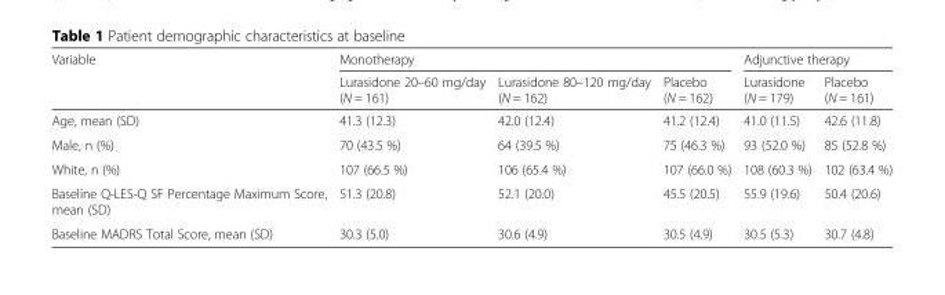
<table><thead><tr><td rowspan="2">Variable</td><td colspan="3">Monotherapy</td><td colspan="2">Adjunctive therapy</td></tr><tr><td>Lurasidone 20–60 mg/day (N = 161)</td><td>Lurasidone 80–120 mg/day (N = 162)</td><td>Placebo (N = 162)</td><td>Lurasidone (N = 179)</td><td>Placebo (N = 161)</td></tr></thead><tbody><tr><td>Age, mean (SD)</td><td>41.3 (12.3)</td><td>42.0 (12.4)</td><td>41.2 (12.4)</td><td>41.0 (11.5)</td><td>42.6 (11.8)</td></tr><tr><td>Male, n (%)</td><td>70 (43.5 %)</td><td>64 (39.5 %)</td><td>75 (46.3 %)</td><td>93 (52.0 %)</td><td>85 (52.8 %)</td></tr><tr><td>White, n (%)</td><td>107 (66.5 %)</td><td>106 (65.4 %)</td><td>107 (66.0 %)</td><td>108 (60.3 %)</td><td>102 (63.4 %)</td></tr><tr><td>Baseline Q-LES-Q SF Percentage Maximum Score, mean (SD)</td><td>51.3 (20.8)</td><td>52.1 (20.0)</td><td>45.5 (20.5)</td><td>55.9 (19.6)</td><td>50.4 (20.6)</td></tr><tr><td>Baseline MADRS Total Score, mean (SD)</td><td>30.3 (5.0)</td><td>30.6 (4.9)</td><td>30.5 (4.9)</td><td>30.5 (5.3)</td><td>30.7 (4.8)</td></tr></tbody></table>